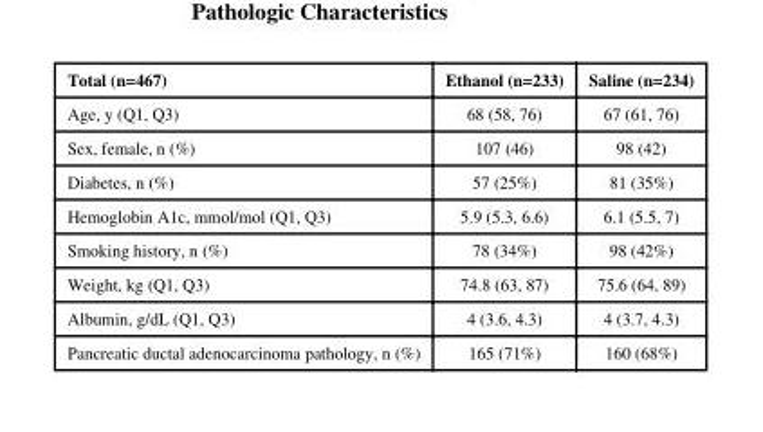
<table><thead><tr><td>Total (n=467)</td><td>Ethanol (n=233)</td><td>Saline (n=234)</td></tr></thead><tbody><tr><td>Age, y (Q1, Q3)</td><td>68 (58, 76)</td><td>67 (61, 76)</td></tr><tr><td>Sex, female, n (%)</td><td>107 (46)</td><td>98 (42)</td></tr><tr><td>Diabetes, n (%)</td><td>57 (25%)</td><td>81 (35%)</td></tr><tr><td>Hemoglobin A1c, mmol/mol (Q1, Q3)</td><td>5.9 (5.3, 6.6)</td><td>6.1 (5.5, 7)</td></tr><tr><td>Smoking history, n (%)</td><td>78 (34%)</td><td>98 (42%)</td></tr><tr><td>Weight, kg (Q1, Q3)</td><td>74.8 (63, 87)</td><td>75.6 (64, 89)</td></tr><tr><td>Albumin, g/dL (Q1, Q3)</td><td>4 (3.6, 4.3)</td><td>4 (3.7, 4.3)</td></tr><tr><td>Pancreatic ductal adenocarcinoma pathology, n (%)</td><td>165 (71%)</td><td>160 (68%)</td></tr></tbody></table>